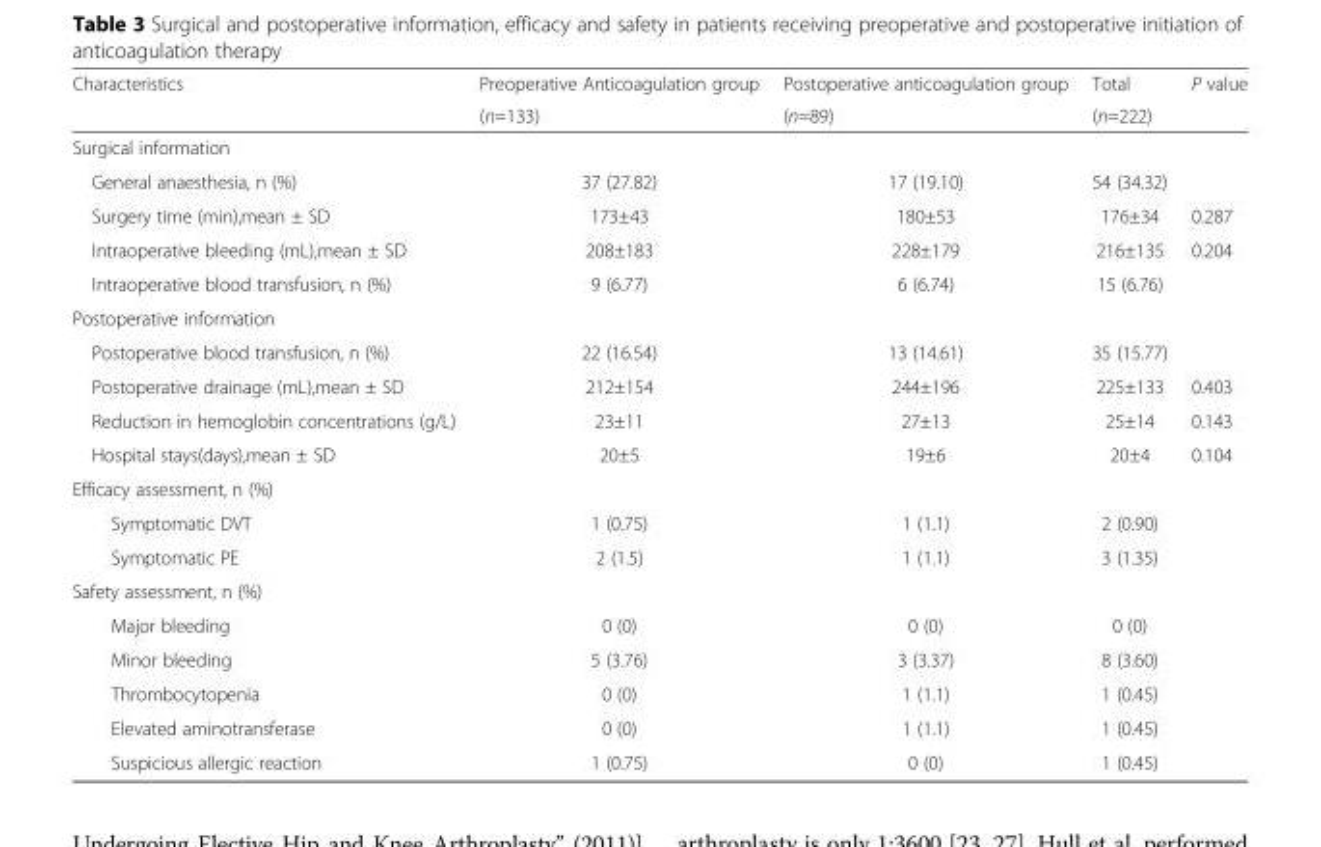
<table><thead><tr><td rowspan="2">Characteristics</td><td rowspan="2">Preoperative Anticoagulation group (n=133)</td><td rowspan="2">Postoperative anticoagulation group (n=89)</td><td rowspan="2">Total (n=222)</td><td rowspan="2">P value</td></tr><tr></tr></thead><tbody><tr><td colspan="5">Surgical information</td></tr><tr><td>General anaesthesia, n (%)</td><td>37 (27.82)</td><td>17 (19.10)</td><td>54 (34.32)</td><td></td></tr><tr><td>Surgery time (min),mean ± SD</td><td>173±43</td><td>180±53</td><td>176±34</td><td>0.287</td></tr><tr><td>Intraoperative bleeding (mL),mean ± SD</td><td>208±183</td><td>228±179</td><td>216±135</td><td>0.204</td></tr><tr><td>Intraoperative blood transfusion, n (%)</td><td>9 (6.77)</td><td>6 (6.74)</td><td>15 (6.76)</td><td></td></tr><tr><td colspan="5">Postoperative information</td></tr><tr><td>Postoperative blood transfusion, n (%)</td><td>22 (16.54)</td><td>13 (14.61)</td><td>35 (15.77)</td><td></td></tr><tr><td>Postoperative drainage (mL),mean ± SD</td><td>212±154</td><td>244±196</td><td>225±133</td><td>0.403</td></tr><tr><td>Reduction in hemoglobin concentrations (g/L)</td><td>23±11</td><td>27±13</td><td>25±14</td><td>0.143</td></tr><tr><td>Hospital stays(days),mean ± SD</td><td>20±5</td><td>19±6</td><td>20±4</td><td>0.104</td></tr><tr><td colspan="5">Efficacy assessment, n (%)</td></tr><tr><td>Symptomatic DVT</td><td>1 (0.75)</td><td>1 (1.1)</td><td>2 (0.90)</td><td></td></tr><tr><td>Symptomatic PE</td><td>2 (1.5)</td><td>1 (1.1)</td><td>3 (1.35)</td><td></td></tr><tr><td colspan="5">Safety assessment, n (%)</td></tr><tr><td>Major bleeding</td><td>0 (0)</td><td>0 (0)</td><td>0 (0)</td><td></td></tr><tr><td>Minor bleeding</td><td>5 (3.76)</td><td>3 (3.37)</td><td>8 (3.60)</td><td></td></tr><tr><td>Thrombocytopenia</td><td>0 (0)</td><td>1 (1.1)</td><td>1 (0.45)</td><td></td></tr><tr><td>Elevated aminotransferase</td><td>0 (0)</td><td>1 (1.1)</td><td>1 (0.45)</td><td></td></tr><tr><td>Suspicious allergic reaction</td><td>1 (0.75)</td><td>0 (0)</td><td>1 (0.45)</td><td></td></tr></tbody></table>